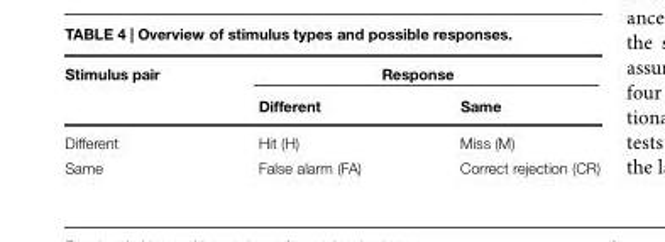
<table><thead><tr><td rowspan="2">Stimulus pair</td><td colspan="2">Response</td></tr><tr><td>Different</td><td>Same</td></tr></thead><tbody><tr><td>Different</td><td>Hit (H)</td><td>Miss (M)</td></tr><tr><td>Same</td><td>False alarm (FA)</td><td>Correct rejection (CR)</td></tr></tbody></table>